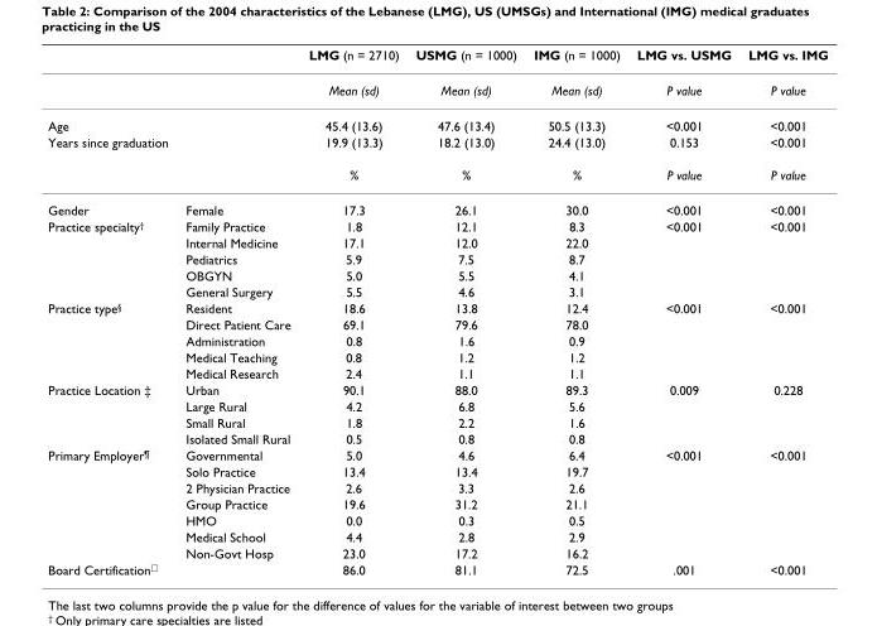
<table><thead><tr><td></td><td></td><td>LMG (n = 2710)</td><td>USMG (n = 1000)</td><td>IMG (n = 1000)</td><td>LMG vs. USMG</td><td>LMG vs. IMG</td></tr></thead><tbody><tr><td></td><td></td><td>Mean (sd)</td><td>Mean (sd)</td><td>Mean (sd)</td><td>P value</td><td>P value</td></tr><tr><td>Age</td><td></td><td>45.4 (13.6)</td><td>47.6 (13.4)</td><td>50.5 (13.3)</td><td>&lt;0.001</td><td>&lt;0.001</td></tr><tr><td rowspan="2">Years since graduation</td><td></td><td>19.9 (13.3)</td><td>18.2 (13.0)</td><td>24.4 (13.0)</td><td>0.153</td><td>&lt;0.001</td></tr><tr><td></td><td>%</td><td>%</td><td>%</td><td>P value</td><td>P value</td></tr><tr><td>Gender</td><td>Female</td><td>17.3</td><td>26.1</td><td>30.0</td><td>&lt;0.001</td><td>&lt;0.001</td></tr><tr><td rowspan="5">Practice specialty<sup>†</sup></td><td>Family Practice</td><td>1.8</td><td>12.1</td><td>8.3</td><td>&lt;0.001</td><td>&lt;0.001</td></tr><tr><td>Internal Medicine</td><td>17.1</td><td>12.0</td><td>22.0</td><td></td><td></td></tr><tr><td>Pediatrics</td><td>5.9</td><td>7.5</td><td>8.7</td><td></td><td></td></tr><tr><td>OBGYN</td><td>5.0</td><td>5.5</td><td>4.1</td><td></td><td></td></tr><tr><td>General Surgery</td><td>5.5</td><td>4.6</td><td>3.1</td><td></td><td></td></tr><tr><td rowspan="5">Practice type<sup>§</sup></td><td>Resident</td><td>18.6</td><td>13.8</td><td>12.4</td><td>&lt;0.001</td><td>&lt;0.001</td></tr><tr><td>Direct Patient Care</td><td>69.1</td><td>79.6</td><td>78.0</td><td></td><td></td></tr><tr><td>Administration</td><td>0.8</td><td>1.6</td><td>0.9</td><td></td><td></td></tr><tr><td>Medical Teaching</td><td>0.8</td><td>1.2</td><td>1.2</td><td></td><td></td></tr><tr><td>Medical Research</td><td>2.4</td><td>1.1</td><td>1.1</td><td></td><td></td></tr><tr><td rowspan="4">Practice Location ‡</td><td>Urban</td><td>90.1</td><td>88.0</td><td>89.3</td><td>0.009</td><td>0.228</td></tr><tr><td>Large Rural</td><td>4.2</td><td>6.8</td><td>5.6</td><td></td><td></td></tr><tr><td>Small Rural</td><td>1.8</td><td>2.2</td><td>1.6</td><td></td><td></td></tr><tr><td>Isolated Small Rural</td><td>0.5</td><td>0.8</td><td>0.8</td><td></td><td></td></tr><tr><td rowspan="7">Primary Employer<sup>¶</sup></td><td>Governmental</td><td>5.0</td><td>4.6</td><td>6.4</td><td>&lt;0.001</td><td>&lt;0.001</td></tr><tr><td>Solo Practice</td><td>13.4</td><td>13.4</td><td>19.7</td><td></td><td></td></tr><tr><td>2 Physician Practice</td><td>2.6</td><td>3.3</td><td>2.6</td><td></td><td></td></tr><tr><td>Group Practice</td><td>19.6</td><td>31.2</td><td>21.1</td><td></td><td></td></tr><tr><td>HMO</td><td>0.0</td><td>0.3</td><td>0.5</td><td></td><td></td></tr><tr><td>Medical School</td><td>4.4</td><td>2.8</td><td>2.9</td><td></td><td></td></tr><tr><td>Non-Govt Hosp</td><td>23.0</td><td>17.2</td><td>16.2</td><td></td><td></td></tr><tr><td>Board Certification<sup>□</sup></td><td></td><td>86.0</td><td>81.1</td><td>72.5</td><td>.001</td><td>&lt;0.001</td></tr></tbody></table>